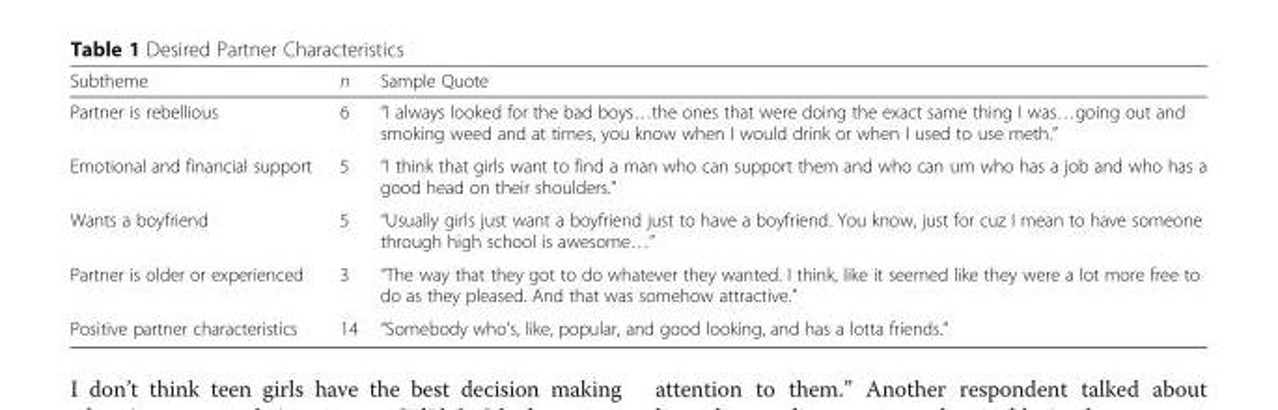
<table><thead><tr><td>Subtheme</td><td>n</td><td>Sample Quote</td></tr></thead><tbody><tr><td>Partner is rebellious</td><td>6</td><td>“I always looked for the bad boys…the ones that were doing the exact same thing I was…going out and smoking weed and at times, you know when I would drink or when I used to use meth.”</td></tr><tr><td>Emotional and financial support</td><td>5</td><td>“I think that girls want to find a man who can support them and who can um who has a job and who has a good head on their shoulders.”</td></tr><tr><td>Wants a boyfriend</td><td>5</td><td>“Usually girls just want a boyfriend just to have a boyfriend. You know, just for cuz I mean to have someone through high school is awesome…”</td></tr><tr><td>Partner is older or experienced</td><td>3</td><td>“The way that they got to do whatever they wanted. I think, like it seemed like they were a lot more free to do as they pleased. And that was somehow attractive.”</td></tr><tr><td>Positive partner characteristics</td><td>14</td><td>“Somebody who’s, like, popular, and good looking, and has a lotta friends.”</td></tr></tbody></table>